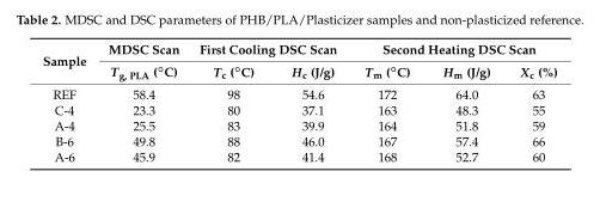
<table><thead><tr><td rowspan="2">Sample</td><td rowspan="2">MDSC Scan Tg, PLA (◦C)</td><td colspan="2">First Cooling DSC Scan</td><td colspan="3">Second Heating DSC Scan</td></tr><tr><td>Tc (◦C)</td><td>H<sub>c</sub> (J/g)</td><td>Tm (◦C)</td><td>H<sub>m</sub> (J/g)</td><td>X<sub>c</sub> (%)</td></tr></thead><tbody><tr><td>REF</td><td>58.4</td><td>98</td><td>54.6</td><td>172</td><td>64.0</td><td>63</td></tr><tr><td>C-4</td><td>23.3</td><td>80</td><td>37.1</td><td>163</td><td>48.3</td><td>55</td></tr><tr><td>A-4</td><td>25.5</td><td>83</td><td>39.9</td><td>164</td><td>51.8</td><td>59</td></tr><tr><td>B-6</td><td>49.8</td><td>88</td><td>46.0</td><td>167</td><td>57.4</td><td>66</td></tr><tr><td>A-6</td><td>45.9</td><td>82</td><td>41.4</td><td>168</td><td>52.7</td><td>60</td></tr></tbody></table>